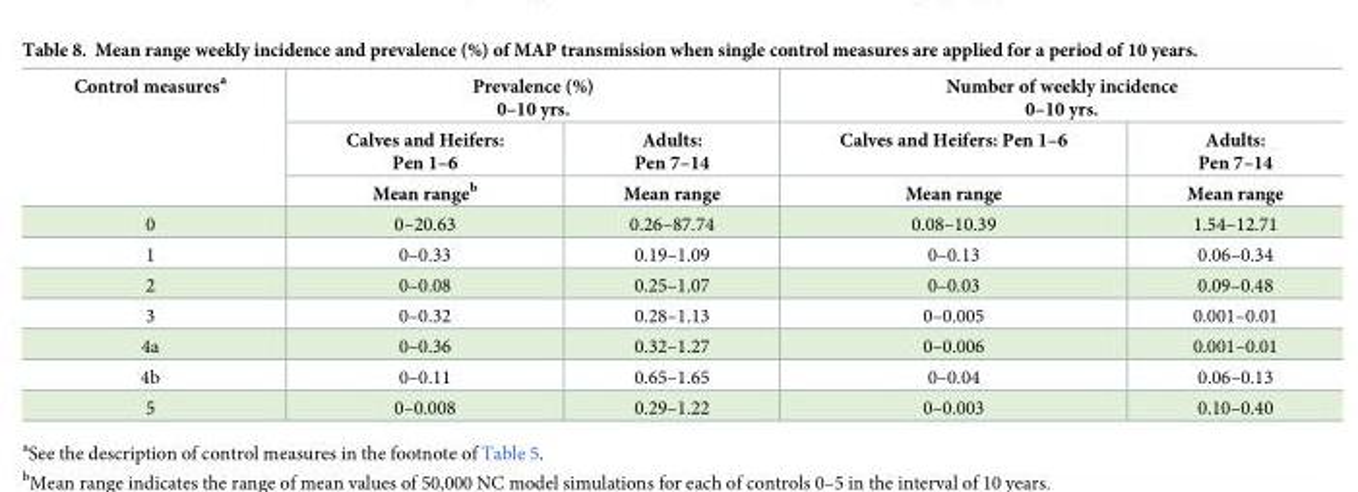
<table><thead><tr><td rowspan="3">Control measures<sup>a</sup></td><td colspan="2">Prevalence (%) 0–10 yrs.</td><td colspan="2">Number of weekly incidence 0–10 yrs.</td></tr><tr><td rowspan="2">Calves and Heifers: Pen 1–6 Mean range<sup>b</sup></td><td rowspan="2">Adults: Pen 7–14 Mean range</td><td rowspan="2">Calves and Heifers: Pen 1–6 Mean range</td><td rowspan="2">Adults: Pen 7–14 Mean range</td></tr><tr></tr></thead><tbody><tr><td>0</td><td>0–20.63</td><td>0.26–87.74</td><td>0.08–10.39</td><td>1.54–12.71</td></tr><tr><td>1</td><td>0–0.33</td><td>0.19–1.09</td><td>0–0.13</td><td>0.06–0.34</td></tr><tr><td>2</td><td>0–0.08</td><td>0.25–1.07</td><td>0–0.03</td><td>0.09–0.48</td></tr><tr><td>3</td><td>0–0.32</td><td>0.28–1.13</td><td>0–0.005</td><td>0.001–0.01</td></tr><tr><td>4a</td><td>0–0.36</td><td>0.32–1.27</td><td>0–0.006</td><td>0.001–0.01</td></tr><tr><td>4b</td><td>0–0.11</td><td>0.65–1.65</td><td>0–0.04</td><td>0.06–0.13</td></tr><tr><td>5</td><td>0–0.008</td><td>0.29–1.22</td><td>0–0.003</td><td>0.10–0.40</td></tr></tbody></table>